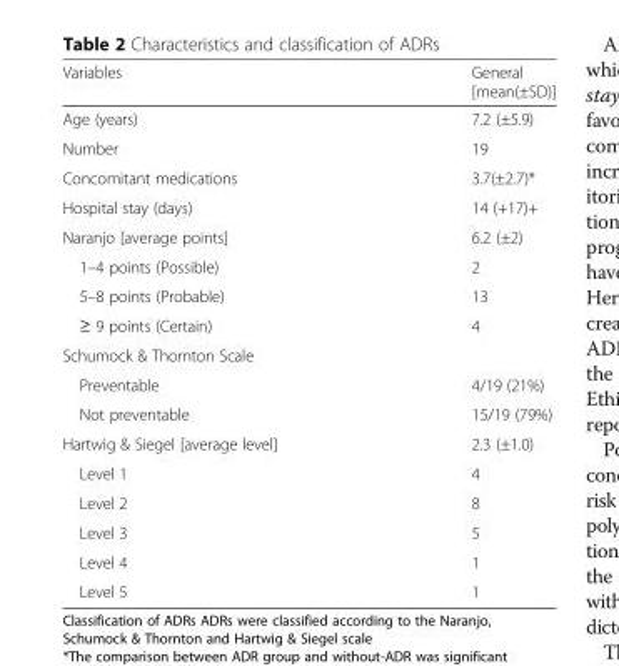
<table><thead><tr><td>Variables</td><td>General [mean(±SD)]</td></tr></thead><tbody><tr><td>Age (years)</td><td>7.2 (±5.9)</td></tr><tr><td>Number</td><td>19</td></tr><tr><td>Concomitant medications</td><td>3.7(±2.7)*</td></tr><tr><td>Hospital stay (days)</td><td>14 (+17)+</td></tr><tr><td>Naranjo [average points]</td><td>6.2 (±2)</td></tr><tr><td>1–4 points (Possible)</td><td>2</td></tr><tr><td>5–8 points (Probable)</td><td>13</td></tr><tr><td>≥ 9 points (Certain)</td><td>4</td></tr><tr><td colspan="2">Schumock &amp; Thornton Scale</td></tr><tr><td>Preventable</td><td>4/19 (21%)</td></tr><tr><td>Not preventable</td><td>15/19 (79%)</td></tr><tr><td>Hartwig &amp; Siegel [average level]</td><td>2.3 (±1.0)</td></tr><tr><td>Level 1</td><td>4</td></tr><tr><td>Level 2</td><td>8</td></tr><tr><td>Level 3</td><td>5</td></tr><tr><td>Level 4</td><td>1</td></tr><tr><td>Level 5</td><td>1</td></tr></tbody></table>